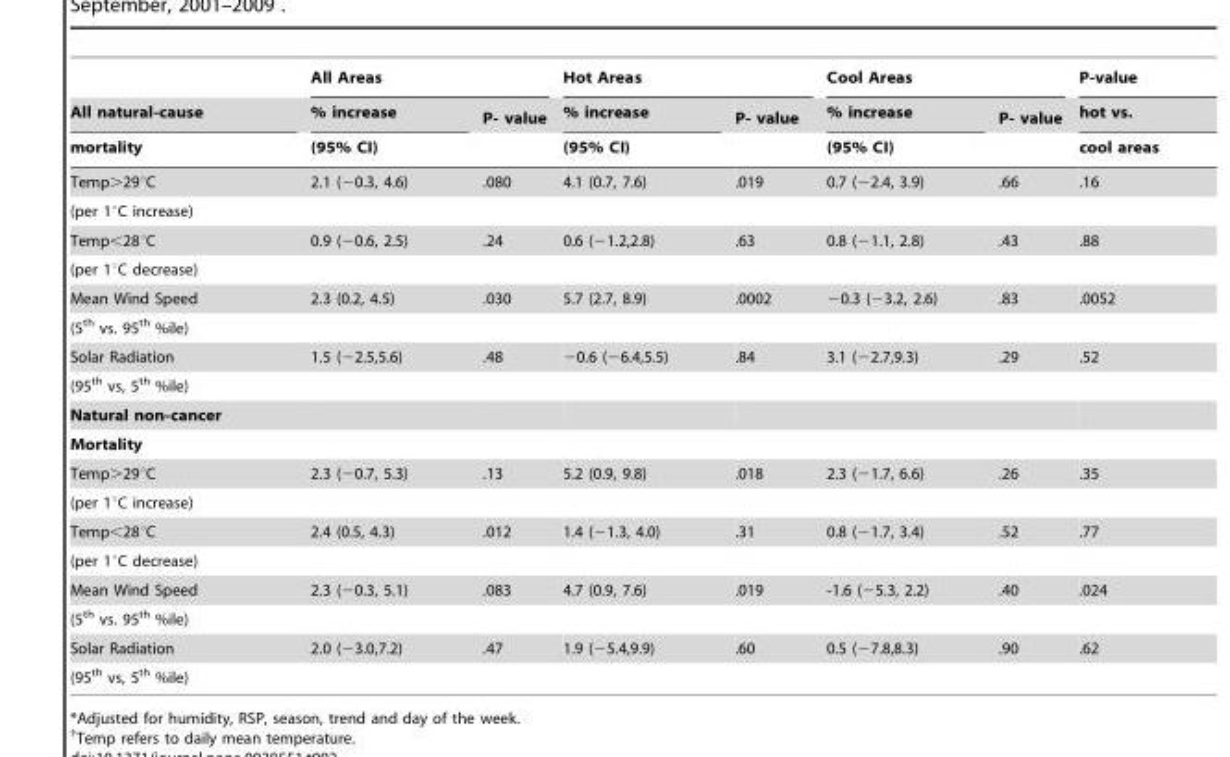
<table><thead><tr><td rowspan="3">All natural-cause mortality</td><td colspan="2">All Areas</td><td colspan="2">Hot Areas</td><td colspan="2">Cool Areas</td><td rowspan="3">P-value hot vs. cool areas</td></tr><tr><td rowspan="2">% increase (95% CI)</td><td rowspan="2">P- value</td><td rowspan="2">% increase (95% CI)</td><td rowspan="2">P- value</td><td rowspan="2">% increase (95% CI)</td><td rowspan="2">P- value</td></tr><tr></tr></thead><tbody><tr><td>Temp&gt;29°C</td><td>2.1 (−0.3, 4.6)</td><td>.080</td><td>4.1 (0.7, 7.6)</td><td>.019</td><td>0.7 (−2.4, 3.9)</td><td>.66</td><td>.16</td></tr><tr><td colspan="8">(per 1°C increase)</td></tr><tr><td>Temp&lt;28°C</td><td>0.9 (−0.6, 2.5)</td><td>.24</td><td>0.6 (−1.2,2.8)</td><td>.63</td><td>0.8 (−1.1, 2.8)</td><td>.43</td><td>.88</td></tr><tr><td colspan="8">(per 1°C decrease)</td></tr><tr><td>Mean Wind Speed</td><td>2.3 (0.2, 4.5)</td><td>.030</td><td>5.7 (2.7, 8.9)</td><td>.0002</td><td>−0.3 (−3.2, 2.6)</td><td>.83</td><td>.0052</td></tr><tr><td colspan="8">(5<sup>th</sup> vs. 95<sup>th</sup> %ile)</td></tr><tr><td>Solar Radiation</td><td>1.5 (−2.5,5.6)</td><td>.48</td><td>−0.6 (−6.4,5.5)</td><td>.84</td><td>3.1 (−2.7,9.3)</td><td>.29</td><td>.52</td></tr><tr><td colspan="8">(95<sup>th</sup> vs, 5<sup>th</sup> %ile)</td></tr><tr><td colspan="8">Natural non-cancer</td></tr><tr><td colspan="8">Mortality</td></tr><tr><td>Temp&gt;29°C</td><td>2.3 (−0.7, 5.3)</td><td>.13</td><td>5.2 (0.9, 9.8)</td><td>.018</td><td>2.3 (−1.7, 6.6)</td><td>.26</td><td>.35</td></tr><tr><td colspan="8">(per 1°C increase)</td></tr><tr><td>Temp&lt;28°C</td><td>2.4 (0.5, 4.3)</td><td>.012</td><td>1.4 (−1.3, 4.0)</td><td>.31</td><td>0.8 (−1.7, 3.4)</td><td>.52</td><td>.77</td></tr><tr><td colspan="8">(per 1°C decrease)</td></tr><tr><td>Mean Wind Speed</td><td>2.3 (−0.3, 5.1)</td><td>.083</td><td>4.7 (0.9, 7.6)</td><td>.019</td><td>-1.6 (−5.3, 2.2)</td><td>.40</td><td>.024</td></tr><tr><td colspan="8">(5<sup>th</sup> vs. 95<sup>th</sup> %ile)</td></tr><tr><td>Solar Radiation</td><td>2.0 (−3.0,7.2)</td><td>.47</td><td>1.9 (−5.4,9.9)</td><td>.60</td><td>0.5 (−7.8,8.3)</td><td>.90</td><td>.62</td></tr><tr><td>(95<sup>th</sup> vs, 5<sup>th</sup> %ile)</td><td></td><td></td><td></td><td></td><td></td><td></td><td></td></tr></tbody></table>